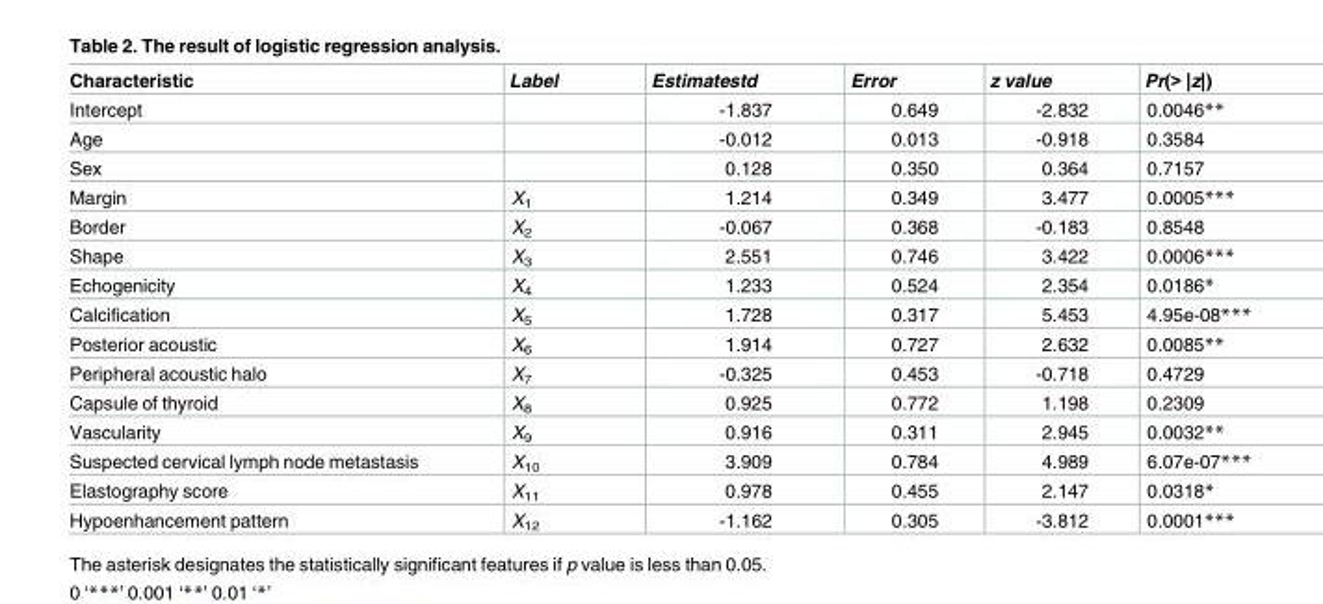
<table><thead><tr><td>Characteristic</td><td>Label</td><td>Estimatestd</td><td>Error</td><td>z value</td><td>Pr(&gt; |z|)</td></tr></thead><tbody><tr><td>Intercept</td><td></td><td>-1.837</td><td>0.649</td><td>-2.832</td><td>0.0046**</td></tr><tr><td>Age</td><td></td><td>-0.012</td><td>0.013</td><td>-0.918</td><td>0.3584</td></tr><tr><td>Sex</td><td></td><td>0.128</td><td>0.350</td><td>0.364</td><td>0.7157</td></tr><tr><td>Margin</td><td>X<sub>1</sub></td><td>1.214</td><td>0.349</td><td>3.477</td><td>0.0005***</td></tr><tr><td>Border</td><td>X<sub>2</sub></td><td>-0.067</td><td>0.368</td><td>-0.183</td><td>0.8548</td></tr><tr><td>Shape</td><td>X<sub>3</sub></td><td>2.551</td><td>0.746</td><td>3.422</td><td>0.0006***</td></tr><tr><td>Echogenicity</td><td>X<sub>4</sub></td><td>1.233</td><td>0.524</td><td>2.354</td><td>0.0186*</td></tr><tr><td>Calcification</td><td>X<sub>5</sub></td><td>1.728</td><td>0.317</td><td>5.453</td><td>4.95e-08***</td></tr><tr><td>Posterior acoustic</td><td>X<sub>6</sub></td><td>1.914</td><td>0.727</td><td>2.632</td><td>0.0085**</td></tr><tr><td>Peripheral acoustic halo</td><td>X<sub>7</sub></td><td>-0.325</td><td>0.453</td><td>-0.718</td><td>0.4729</td></tr><tr><td>Capsule of thyroid</td><td>X<sub>8</sub></td><td>0.925</td><td>0.772</td><td>1.198</td><td>0.2309</td></tr><tr><td>Vascularity</td><td>X<sub>9</sub></td><td>0.916</td><td>0.311</td><td>2.945</td><td>0.0032**</td></tr><tr><td>Suspected cervical lymph node metastasis</td><td>X<sub>10</sub></td><td>3.909</td><td>0.784</td><td>4.989</td><td>6.07e-07***</td></tr><tr><td>Elastography score</td><td>X<sub>11</sub></td><td>0.978</td><td>0.455</td><td>2.147</td><td>0.0318*</td></tr><tr><td>Hypoenhancement pattern</td><td>X<sub>12</sub></td><td>-1.162</td><td>0.305</td><td>-3.812</td><td>0.0001***</td></tr></tbody></table>